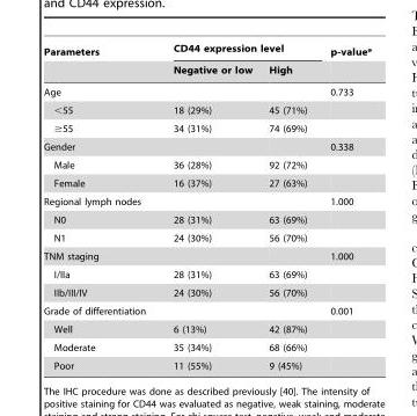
<table><thead><tr><td rowspan="2">Parameters</td><td colspan="2">CD44 expression level</td><td rowspan="2">p-value*</td></tr><tr><td>Negative or low</td><td>High</td></tr></thead><tbody><tr><td>Age</td><td></td><td></td><td>0.733</td></tr><tr><td>&lt;55</td><td>18 (29%)</td><td>45 (71%)</td><td></td></tr><tr><td>≥55</td><td>34 (31%)</td><td>74 (69%)</td><td></td></tr><tr><td>Gender</td><td></td><td></td><td>0.338</td></tr><tr><td>Male</td><td>36 (28%)</td><td>92 (72%)</td><td></td></tr><tr><td>Female</td><td>16 (37%)</td><td>27 (63%)</td><td></td></tr><tr><td>Regional lymph nodes</td><td></td><td></td><td>1.000</td></tr><tr><td>N0</td><td>28 (31%)</td><td>63 (69%)</td><td></td></tr><tr><td>N1</td><td>24 (30%)</td><td>56 (70%)</td><td></td></tr><tr><td>TNM staging</td><td></td><td></td><td>1.000</td></tr><tr><td>I/IIa</td><td>28 (31%)</td><td>63 (69%)</td><td></td></tr><tr><td>IIb/III/IV</td><td>24 (30%)</td><td>56 (70%)</td><td></td></tr><tr><td>Grade of differentiation</td><td></td><td></td><td>0.001</td></tr><tr><td>Well</td><td>6 (13%)</td><td>42 (87%)</td><td></td></tr><tr><td>Moderate</td><td>35 (34%)</td><td>68 (66%)</td><td></td></tr><tr><td>Poor</td><td>11 (55%)</td><td>9 (45%)</td><td></td></tr></tbody></table>